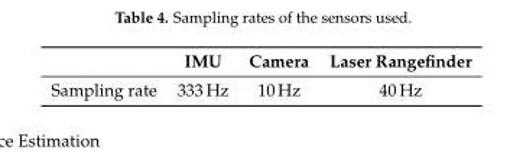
<table><thead><tr><td></td><td>IMU</td><td>Camera</td><td>Laser Rangefinder</td></tr></thead><tbody><tr><td>Sampling rate</td><td>333 Hz</td><td>10 Hz</td><td>40 Hz</td></tr></tbody></table>